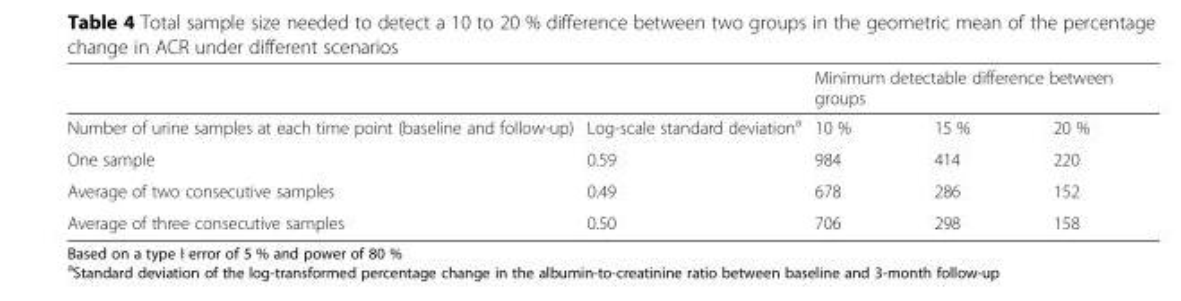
<table><thead><tr><td rowspan="2">Number of urine samples at each time point (baseline and follow-up)</td><td rowspan="2">Log-scale standard deviation<sup>a</sup></td><td colspan="3">Minimum detectable difference between groups</td></tr><tr><td>10 %</td><td>15 %</td><td>20 %</td></tr></thead><tbody><tr><td>One sample</td><td>0.59</td><td>984</td><td>414</td><td>220</td></tr><tr><td>Average of two consecutive samples</td><td>0.49</td><td>678</td><td>286</td><td>152</td></tr><tr><td>Average of three consecutive samples</td><td>0.50</td><td>706</td><td>298</td><td>158</td></tr></tbody></table>